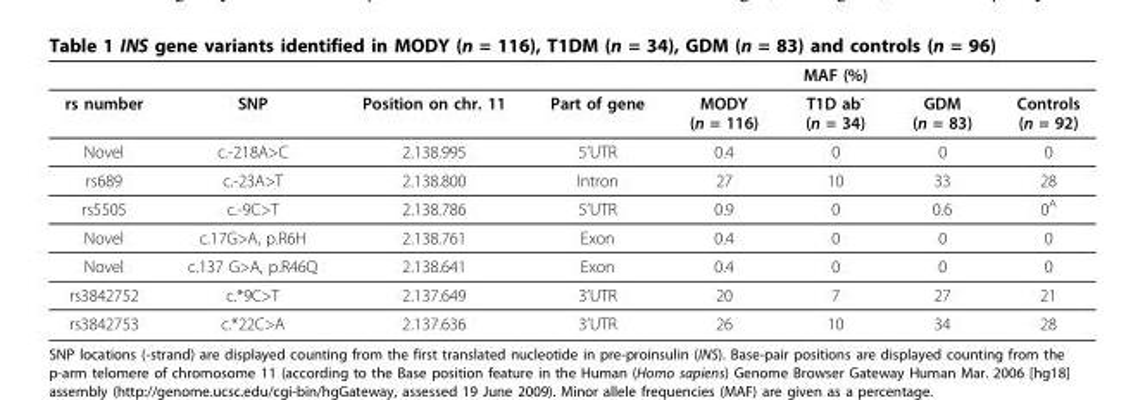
<table><thead><tr><td></td><td></td><td></td><td></td><td></td><td>MAF (%)</td><td></td><td></td></tr></thead><tbody><tr><td>rs number</td><td>SNP</td><td>Position on chr. 11</td><td>Part of gene</td><td>MODY (n = 116)</td><td>T1D ab<sup>-</sup> (n = 34)</td><td>GDM (n = 83)</td><td>Controls (n = 92)</td></tr><tr><td>Novel</td><td>c.-218A&gt;C</td><td>2.138.995</td><td>5’UTR</td><td>0.4</td><td>0</td><td>0</td><td>0</td></tr><tr><td>rs689</td><td>c.-23A&gt;T</td><td>2.138.800</td><td>Intron</td><td>27</td><td>10</td><td>33</td><td>28</td></tr><tr><td>rs5505</td><td>c.-9C&gt;T</td><td>2.138.786</td><td>5’UTR</td><td>0.9</td><td>0</td><td>0.6</td><td>0<sup>A</sup></td></tr><tr><td>Novel</td><td>c.17G&gt;A, p.R6H</td><td>2.138.761</td><td>Exon</td><td>0.4</td><td>0</td><td>0</td><td>0</td></tr><tr><td>Novel</td><td>c.137 G&gt;A, p.R46Q</td><td>2.138.641</td><td>Exon</td><td>0.4</td><td>0</td><td>0</td><td>0</td></tr><tr><td>rs3842752</td><td>c.*9C&gt;T</td><td>2.137.649</td><td>3’UTR</td><td>20</td><td>7</td><td>27</td><td>21</td></tr><tr><td>rs3842753</td><td>c.*22C&gt;A</td><td>2.137.636</td><td>3’UTR</td><td>26</td><td>10</td><td>34</td><td>28</td></tr></tbody></table>